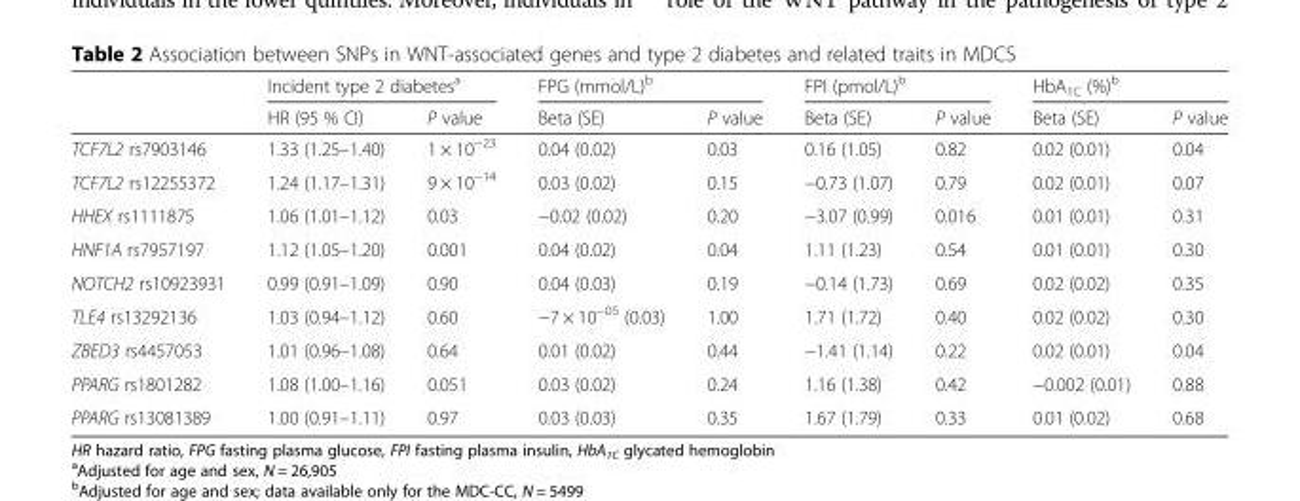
<table><thead><tr><td rowspan="2"></td><td colspan="2">Incident type 2 diabetes<sup>a</sup></td><td colspan="2">FPG (mmol/L)<sup>b</sup></td><td colspan="2">FPI (pmol/L)<sup>b</sup></td><td colspan="2">HbA<sub>1C</sub> (%)<sup>b</sup></td></tr><tr><td>HR (95 % CI)</td><td>P value</td><td>Beta (SE)</td><td>P value</td><td>Beta (SE)</td><td>P value</td><td>Beta (SE)</td><td>P value</td></tr></thead><tbody><tr><td>TCF7L2 rs7903146</td><td>1.33 (1.25–1.40)</td><td>1 × 10<sup>−23</sup></td><td>0.04 (0.02)</td><td>0.03</td><td>0.16 (1.05)</td><td>0.82</td><td>0.02 (0.01)</td><td>0.04</td></tr><tr><td>TCF7L2 rs12255372</td><td>1.24 (1.17–1.31)</td><td>9 × 10<sup>−14</sup></td><td>0.03 (0.02)</td><td>0.15</td><td>−0.73 (1.07)</td><td>0.79</td><td>0.02 (0.01)</td><td>0.07</td></tr><tr><td>HHEX rs1111875</td><td>1.06 (1.01–1.12)</td><td>0.03</td><td>−0.02 (0.02)</td><td>0.20</td><td>−3.07 (0.99)</td><td>0.016</td><td>0.01 (0.01)</td><td>0.31</td></tr><tr><td>HNF1A rs7957197</td><td>1.12 (1.05–1.20)</td><td>0.001</td><td>0.04 (0.02)</td><td>0.04</td><td>1.11 (1.23)</td><td>0.54</td><td>0.01 (0.01)</td><td>0.30</td></tr><tr><td>NOTCH2 rs10923931</td><td>0.99 (0.91–1.09)</td><td>0.90</td><td>0.04 (0.03)</td><td>0.19</td><td>−0.14 (1.73)</td><td>0.69</td><td>0.02 (0.02)</td><td>0.35</td></tr><tr><td>TLE4 rs13292136</td><td>1.03 (0.94–1.12)</td><td>0.60</td><td>−7 × 10<sup>−05</sup> (0.03)</td><td>1.00</td><td>1.71 (1.72)</td><td>0.40</td><td>0.02 (0.02)</td><td>0.30</td></tr><tr><td>ZBED3 rs4457053</td><td>1.01 (0.96–1.08)</td><td>0.64</td><td>0.01 (0.02)</td><td>0.44</td><td>−1.41 (1.14)</td><td>0.22</td><td>0.02 (0.01)</td><td>0.04</td></tr><tr><td>PPARG rs1801282</td><td>1.08 (1.00–1.16)</td><td>0.051</td><td>0.03 (0.02)</td><td>0.24</td><td>1.16 (1.38)</td><td>0.42</td><td>−0.002 (0.01)</td><td>0.88</td></tr><tr><td>PPARG rs13081389</td><td>1.00 (0.91–1.11)</td><td>0.97</td><td>0.03 (0.03)</td><td>0.35</td><td>1.67 (1.79)</td><td>0.33</td><td>0.01 (0.02)</td><td>0.68</td></tr></tbody></table>